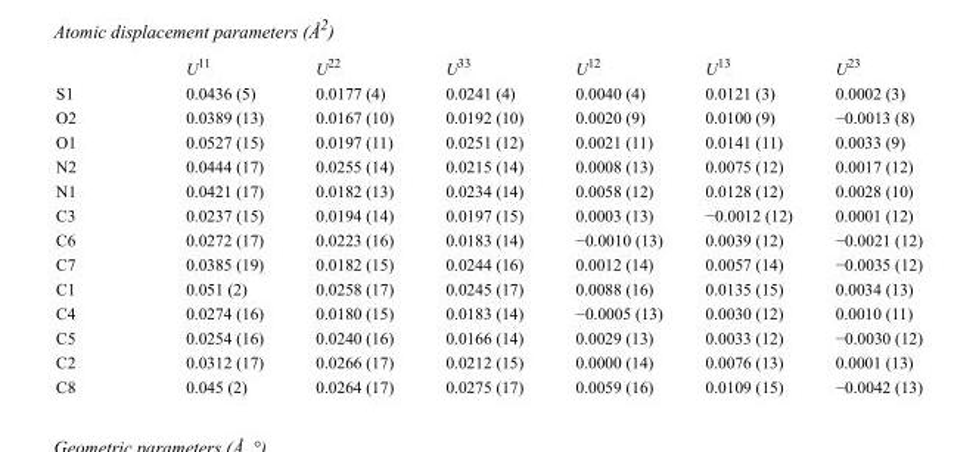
<table><thead><tr><td></td><td>U<sup>11</sup></td><td>U<sup>22</sup></td><td>U<sup>33</sup></td><td>U<sup>12</sup></td><td>U<sup>13</sup></td><td>U<sup>23</sup></td></tr></thead><tbody><tr><td>S1</td><td>0.0436 (5)</td><td>0.0177 (4)</td><td>0.0241 (4)</td><td>0.0040 (4)</td><td>0.0121 (3)</td><td>0.0002 (3)</td></tr><tr><td>O2</td><td>0.0389 (13)</td><td>0.0167 (10)</td><td>0.0192 (10)</td><td>0.0020 (9)</td><td>0.0100 (9)</td><td>−0.0013 (8)</td></tr><tr><td>O1</td><td>0.0527 (15)</td><td>0.0197 (11)</td><td>0.0251 (12)</td><td>0.0021 (11)</td><td>0.0141 (11)</td><td>0.0033 (9)</td></tr><tr><td>N2</td><td>0.0444 (17)</td><td>0.0255 (14)</td><td>0.0215 (14)</td><td>0.0008 (13)</td><td>0.0075 (12)</td><td>0.0017 (12)</td></tr><tr><td>N1</td><td>0.0421 (17)</td><td>0.0182 (13)</td><td>0.0234 (14)</td><td>0.0058 (12)</td><td>0.0128 (12)</td><td>0.0028 (10)</td></tr><tr><td>C3</td><td>0.0237 (15)</td><td>0.0194 (14)</td><td>0.0197 (15)</td><td>0.0003 (13)</td><td>−0.0012 (12)</td><td>0.0001 (12)</td></tr><tr><td>C6</td><td>0.0272 (17)</td><td>0.0223 (16)</td><td>0.0183 (14)</td><td>−0.0010 (13)</td><td>0.0039 (12)</td><td>−0.0021 (12)</td></tr><tr><td>C7</td><td>0.0385 (19)</td><td>0.0182 (15)</td><td>0.0244 (16)</td><td>0.0012 (14)</td><td>0.0057 (14)</td><td>−0.0035 (12)</td></tr><tr><td>C1</td><td>0.051 (2)</td><td>0.0258 (17)</td><td>0.0245 (17)</td><td>0.0088 (16)</td><td>0.0135 (15)</td><td>0.0034 (13)</td></tr><tr><td>C4</td><td>0.0274 (16)</td><td>0.0180 (15)</td><td>0.0183 (14)</td><td>−0.0005 (13)</td><td>0.0030 (12)</td><td>0.0010 (11)</td></tr><tr><td>C5</td><td>0.0254 (16)</td><td>0.0240 (16)</td><td>0.0166 (14)</td><td>0.0029 (13)</td><td>0.0033 (12)</td><td>−0.0030 (12)</td></tr><tr><td>C2</td><td>0.0312 (17)</td><td>0.0266 (17)</td><td>0.0212 (15)</td><td>0.0000 (14)</td><td>0.0076 (13)</td><td>0.0001 (13)</td></tr><tr><td>C8</td><td>0.045 (2)</td><td>0.0264 (17)</td><td>0.0275 (17)</td><td>0.0059 (16)</td><td>0.0109 (15)</td><td>−0.0042 (13)</td></tr></tbody></table>